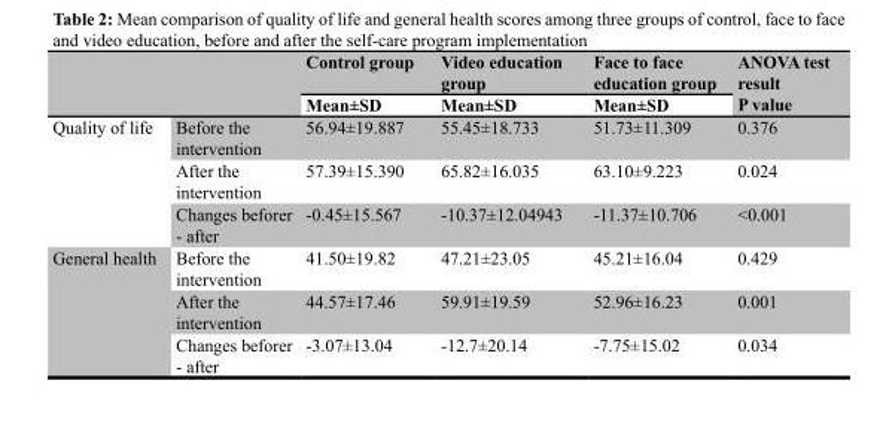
<table><thead><tr><td rowspan="2"></td><td rowspan="2"></td><td rowspan="2">Control group Mean±SD</td><td rowspan="2">Video education group Mean±SD</td><td rowspan="2">Face to face education group Mean±SD</td><td rowspan="2">ANOVA test result P value</td></tr><tr></tr></thead><tbody><tr><td rowspan="3">Quality of life</td><td>Before the intervention</td><td>56.94±19.887</td><td>55.45±18.733</td><td>51.73±11.309</td><td>0.376</td></tr><tr><td>After the intervention</td><td>57.39±15.390</td><td>65.82±16.035</td><td>63.10±9.223</td><td>0.024</td></tr><tr><td>Changes beforer - after</td><td>-0.45±15.567</td><td>-10.37±12.04943</td><td>-11.37±10.706</td><td>&lt;0.001</td></tr><tr><td rowspan="3">General health</td><td>Before the intervention</td><td>41.50±19.82</td><td>47.21±23.05</td><td>45.21±16.04</td><td>0.429</td></tr><tr><td>After the intervention</td><td>44.57±17.46</td><td>59.91±19.59</td><td>52.96±16.23</td><td>0.001</td></tr><tr><td>Changes beforer - after</td><td>-3.07±13.04</td><td>-12.7±20.14</td><td>-7.75±15.02</td><td>0.034</td></tr></tbody></table>